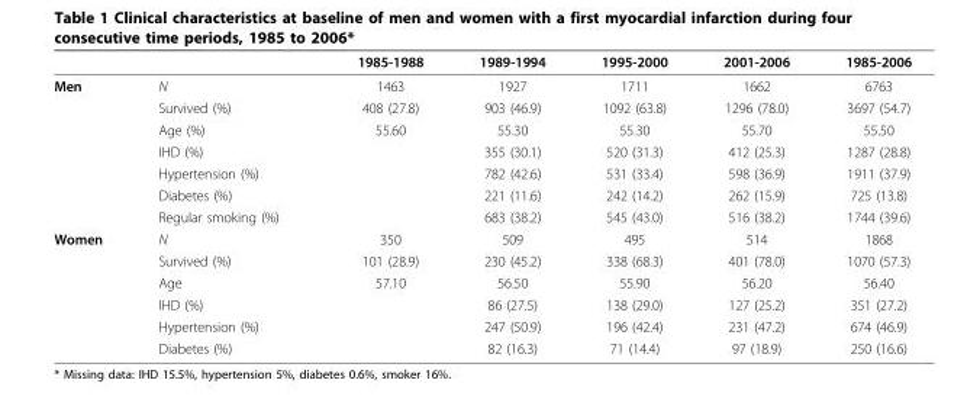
<table><thead><tr><td></td><td></td><td>1985-1988</td><td>1989-1994</td><td>1995-2000</td><td>2001-2006</td><td>1985-2006</td></tr></thead><tbody><tr><td rowspan="7">Men</td><td>N</td><td>1463</td><td>1927</td><td>1711</td><td>1662</td><td>6763</td></tr><tr><td>Survived (%)</td><td>408 (27.8)</td><td>903 (46.9)</td><td>1092 (63.8)</td><td>1296 (78.0)</td><td>3697 (54.7)</td></tr><tr><td>Age (%)</td><td>55.60</td><td>55.30</td><td>55.30</td><td>55.70</td><td>55.50</td></tr><tr><td>IHD (%)</td><td></td><td>355 (30.1)</td><td>520 (31.3)</td><td>412 (25.3)</td><td>1287 (28.8)</td></tr><tr><td>Hypertension (%)</td><td></td><td>782 (42.6)</td><td>531 (33.4)</td><td>598 (36.9)</td><td>1911 (37.9)</td></tr><tr><td>Diabetes (%)</td><td></td><td>221 (11.6)</td><td>242 (14.2)</td><td>262 (15.9)</td><td>725 (13.8)</td></tr><tr><td>Regular smoking (%)</td><td></td><td>683 (38.2)</td><td>545 (43.0)</td><td>516 (38.2)</td><td>1744 (39.6)</td></tr><tr><td rowspan="6">Women</td><td>N</td><td>350</td><td>509</td><td>495</td><td>514</td><td>1868</td></tr><tr><td>Survived (%)</td><td>101 (28.9)</td><td>230 (45.2)</td><td>338 (68.3)</td><td>401 (78.0)</td><td>1070 (57.3)</td></tr><tr><td>Age</td><td>57.10</td><td>56.50</td><td>55.90</td><td>56.20</td><td>56.40</td></tr><tr><td>IHD (%)</td><td></td><td>86 (27.5)</td><td>138 (29.0)</td><td>127 (25.2)</td><td>351 (27.2)</td></tr><tr><td>Hypertension (%)</td><td></td><td>247 (50.9)</td><td>196 (42.4)</td><td>231 (47.2)</td><td>674 (46.9)</td></tr><tr><td>Diabetes (%)</td><td></td><td>82 (16.3)</td><td>71 (14.4)</td><td>97 (18.9)</td><td>250 (16.6)</td></tr></tbody></table>